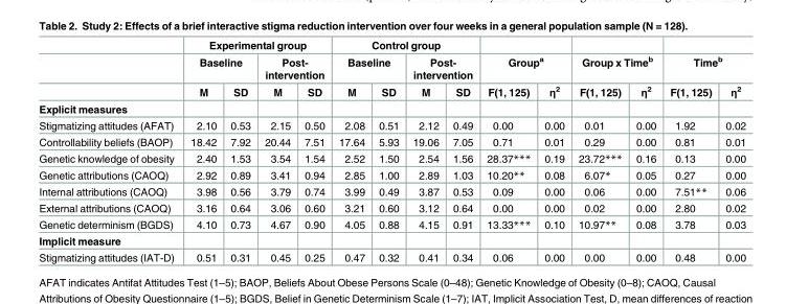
<table><thead><tr><td rowspan="3"></td><td colspan="4">Experimental group</td><td colspan="4">Control group</td><td></td><td></td><td></td><td></td><td></td><td></td></tr><tr><td colspan="2">Baseline</td><td colspan="2">Post- intervention</td><td colspan="2">Baseline</td><td colspan="2">Post- intervention</td><td colspan="2">Group<sup>a</sup></td><td colspan="2">Group x Time<sup>b</sup></td><td colspan="2">Time<sup>b</sup></td></tr><tr><td>M</td><td>SD</td><td>M</td><td>SD</td><td>M</td><td>SD</td><td>M</td><td>SD</td><td>F(1, 125)</td><td>η<sup>2</sup></td><td>F(1, 125)</td><td>η<sup>2</sup></td><td>F(1, 125)</td><td>η<sup>2</sup></td></tr></thead><tbody><tr><td colspan="15">Explicit measures</td></tr><tr><td>Stigmatizing attitudes (AFAT)</td><td>2.10</td><td>0.53</td><td>2.15</td><td>0.50</td><td>2.08</td><td>0.51</td><td>2.12</td><td>0.49</td><td>0.00</td><td>0.00</td><td>0.01</td><td>0.00</td><td>1.92</td><td>0.02</td></tr><tr><td>Controllability beliefs (BAOP)</td><td>18.42</td><td>7.92</td><td>20.44</td><td>7.51</td><td>17.64</td><td>5.93</td><td>19.06</td><td>7.05</td><td>0.71</td><td>0.01</td><td>0.29</td><td>0.00</td><td>0.81</td><td>0.01</td></tr><tr><td>Genetic knowledge of obesity</td><td>2.40</td><td>1.53</td><td>3.54</td><td>1.54</td><td>2.52</td><td>1.50</td><td>2.54</td><td>1.56</td><td>28.37***</td><td>0.19</td><td>23.72***</td><td>0.16</td><td>0.13</td><td>0.00</td></tr><tr><td>Genetic attributions (CAOQ)</td><td>2.92</td><td>0.89</td><td>3.41</td><td>0.94</td><td>2.85</td><td>1.00</td><td>2.89</td><td>1.03</td><td>10.20**</td><td>0.08</td><td>6.07*</td><td>0.05</td><td>0.27</td><td>0.00</td></tr><tr><td>Internal attributions (CAOQ)</td><td>3.98</td><td>0.56</td><td>3.79</td><td>0.74</td><td>3.99</td><td>0.49</td><td>3.87</td><td>0.53</td><td>0.09</td><td>0.00</td><td>0.06</td><td>0.00</td><td>7.51**</td><td>0.06</td></tr><tr><td>External attributions (CAOQ)</td><td>3.16</td><td>0.64</td><td>3.06</td><td>0.60</td><td>3.21</td><td>0.60</td><td>3.12</td><td>0.64</td><td>0.00</td><td>0.00</td><td>0.02</td><td>0.00</td><td>2.80</td><td>0.02</td></tr><tr><td>Genetic determinism (BGDS)</td><td>4.10</td><td>0.73</td><td>4.67</td><td>0.90</td><td>4.05</td><td>0.88</td><td>4.15</td><td>0.91</td><td>13.33***</td><td>0.10</td><td>10.97**</td><td>0.08</td><td>3.78</td><td>0.03</td></tr><tr><td colspan="15">Implicit measure</td></tr><tr><td>Stigmatizing attitudes (IAT-D)</td><td>0.51</td><td>0.31</td><td>0.45</td><td>0.25</td><td>0.47</td><td>0.32</td><td>0.41</td><td>0.34</td><td>0.06</td><td>0.00</td><td>0.00</td><td>0.00</td><td>0.48</td><td>0.00</td></tr></tbody></table>